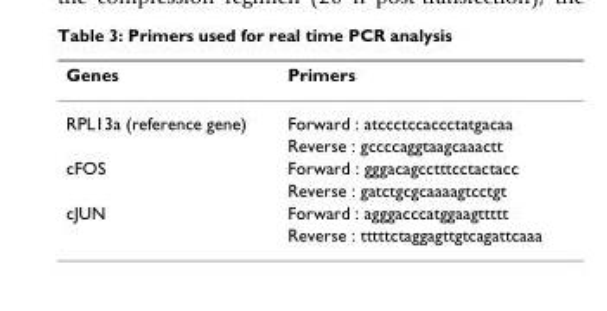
<table><thead><tr><td>Genes</td><td>Primers</td></tr></thead><tbody><tr><td rowspan="2">RPL13a (reference gene)</td><td>Forward : atccctccaccctatgacaa</td></tr><tr><td>Reverse : gccccaggtaagcaaactt</td></tr><tr><td rowspan="2">cFOS</td><td>Forward : gggacagcctttcctactacc</td></tr><tr><td>Reverse : gatctgcgcaaaagtcctgt</td></tr><tr><td rowspan="2">cJUN</td><td>Forward : agggacccatggaagttttt</td></tr><tr><td>Reverse : tttttctaggagttgtcagattcaaa</td></tr></tbody></table>